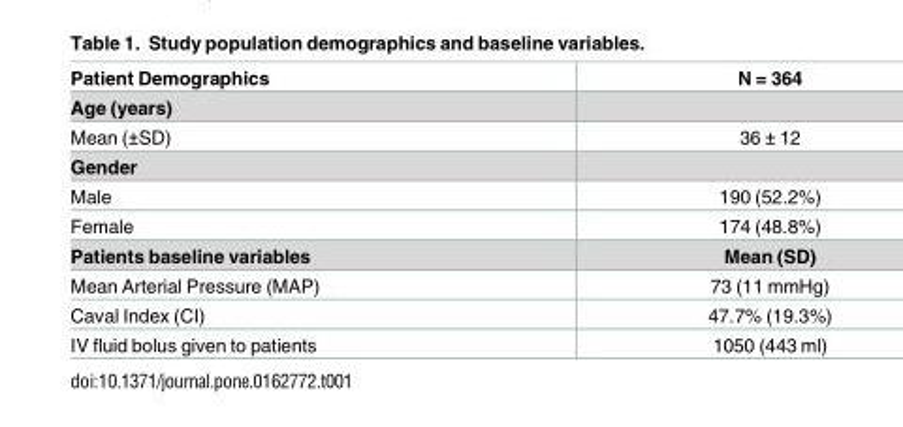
<table><tbody><tr><td>Patient Demographics</td><td>N = 364</td></tr><tr><td colspan="2">Age (years)</td></tr><tr><td>Mean (±SD)</td><td>36 ± 12</td></tr><tr><td colspan="2">Gender</td></tr><tr><td>Male</td><td>190 (52.2%)</td></tr><tr><td>Female</td><td>174 (48.8%)</td></tr><tr><td>Patients baseline variables</td><td>Mean (SD)</td></tr><tr><td>Mean Arterial Pressure (MAP)</td><td>73 (11 mmHg)</td></tr><tr><td>Caval Index (CI)</td><td>47.7% (19.3%)</td></tr><tr><td>IV fluid bolus given to patients</td><td>1050 (443 ml)</td></tr></tbody></table>